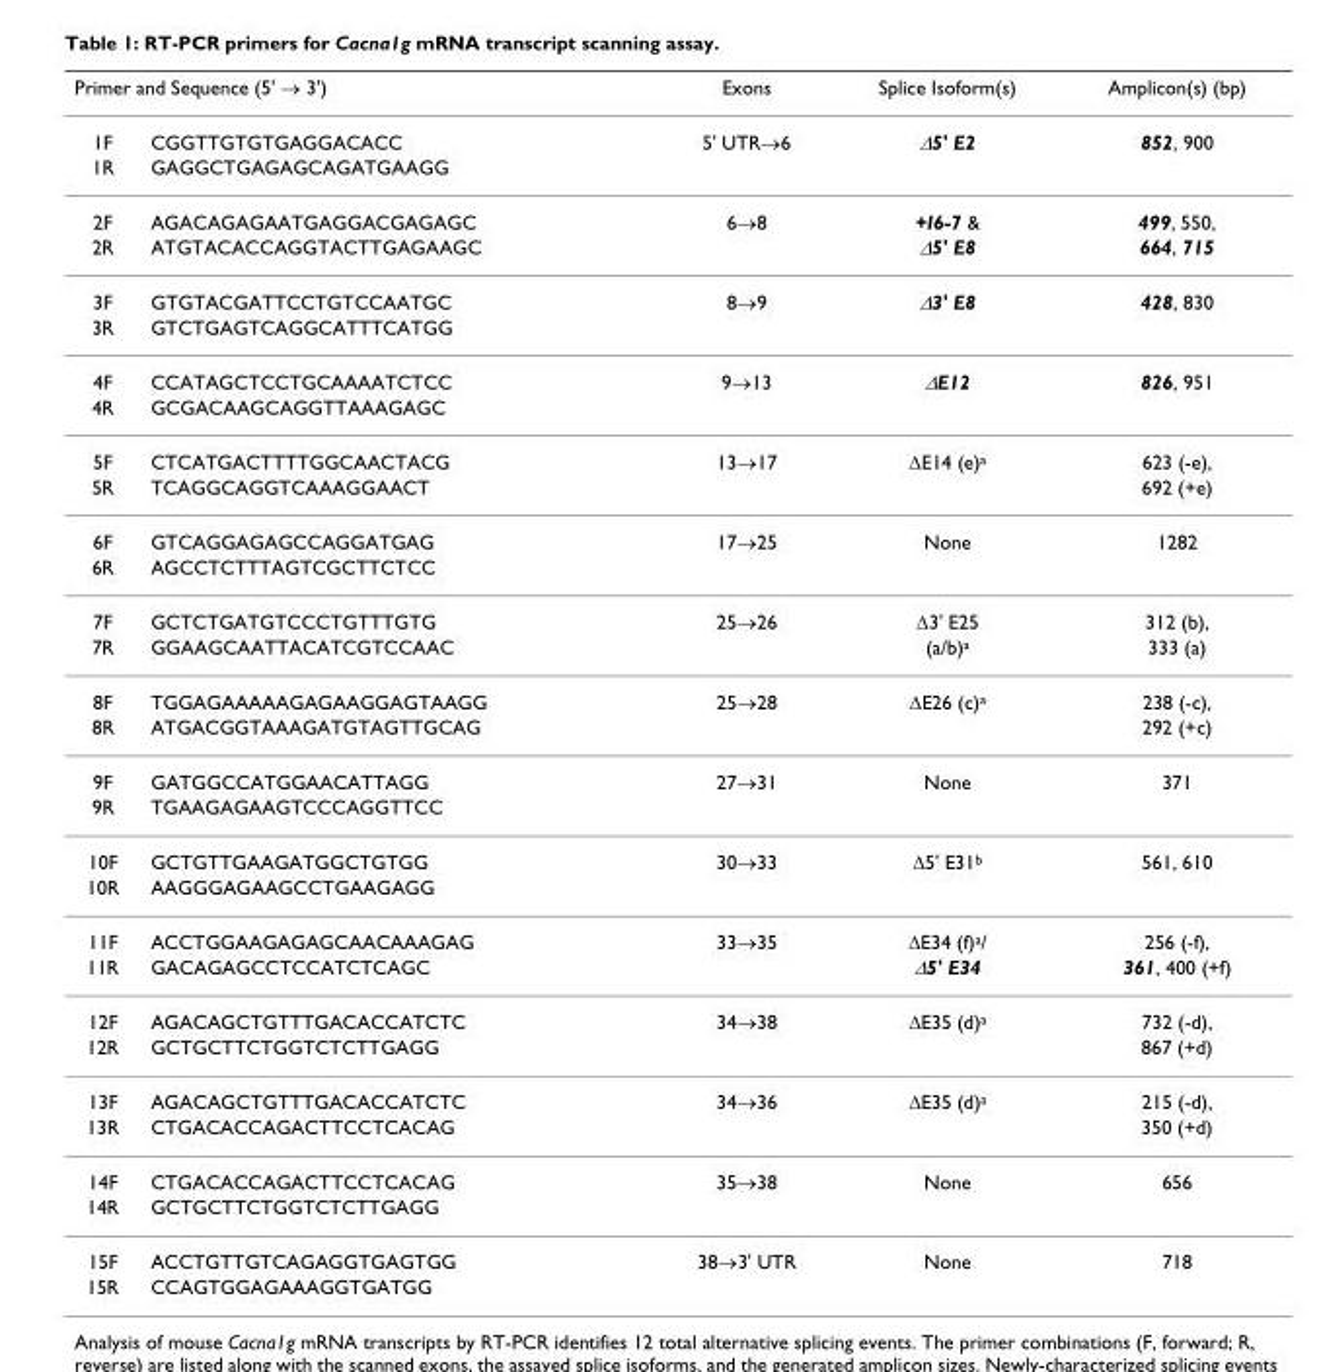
<table><thead><tr><td colspan="2">Primer and Sequence (5&#x27; → 3&#x27;)</td><td rowspan="2">Exons 5&#x27; UTR→6</td><td rowspan="2">Splice Isoform(s) Δ5&#x27; E2</td><td rowspan="2">Amplicon(s) (bp) 852, 900</td></tr><tr><td>1F</td><td>CGGTTGTGTGAGGACACC</td></tr></thead><tbody><tr><td>1R</td><td>GAGGCTGAGAGCAGATGAAGG</td><td></td><td></td><td></td></tr><tr><td>2F</td><td>AGACAGAGAATGAGGACGAGAGC</td><td>6→8</td><td>+I6-7 &amp;</td><td>499, 550,</td></tr><tr><td>2R</td><td>ATGTACACCAGGTACTTGAGAAGC</td><td></td><td>Δ5&#x27; E8</td><td>664, 715</td></tr><tr><td>3F</td><td>GTGTACGATTCCTGTCCAATGC</td><td>8→9</td><td>Δ3&#x27; E8</td><td>428, 830</td></tr><tr><td>3R</td><td>GTCTGAGTCAGGCATTTCATGG</td><td></td><td></td><td></td></tr><tr><td>4F</td><td>CCATAGCTCCTGCAAAATCTCC</td><td>9→13</td><td>ΔE12</td><td>826, 951</td></tr><tr><td>4R</td><td>GCGACAAGCAGGTTAAAGAGC</td><td></td><td></td><td></td></tr><tr><td>5F</td><td>CTCATGACTTTTGGCAACTACG</td><td>13→17</td><td>ΔE14 (e)<sup>a</sup></td><td>623 (-e),</td></tr><tr><td>5R</td><td>TCAGGCAGGTCAAAGGAACT</td><td></td><td></td><td>692 (+e)</td></tr><tr><td>6F</td><td>GTCAGGAGAGCCAGGATGAG</td><td>17→25</td><td>None</td><td>1282</td></tr><tr><td>6R</td><td>AGCCTCTTTAGTCGCTTCTCC</td><td></td><td></td><td></td></tr><tr><td>7F</td><td>GCTCTGATGTCCCTGTTTGTG</td><td>25→26</td><td>Δ3&#x27; E25</td><td>312 (b),</td></tr><tr><td>7R</td><td>GGAAGCAATTACATCGTCCAAC</td><td></td><td>(a/b)<sup>a</sup></td><td>333 (a)</td></tr><tr><td>8F</td><td>TGGAGAAAAAGAGAAGGAGTAAGG</td><td>25→28</td><td>ΔE26 (c)<sup>a</sup></td><td>238 (-c),</td></tr><tr><td>8R</td><td>ATGACGGTAAAGATGTAGTTGCAG</td><td></td><td></td><td>292 (+c)</td></tr><tr><td>9F</td><td>GATGGCCATGGAACATTAGG</td><td>27→31</td><td>None</td><td>371</td></tr><tr><td>9R</td><td>TGAAGAGAAGTCCCAGGTTCC</td><td></td><td></td><td></td></tr><tr><td>10F</td><td>GCTGTTGAAGATGGCTGTGG</td><td>30→33</td><td>Δ5&#x27; E31<sup>b</sup></td><td>561, 610</td></tr><tr><td>10R</td><td>AAGGGAGAAGCCTGAAGAGG</td><td></td><td></td><td></td></tr><tr><td>11F</td><td>ACCTGGAAGAGAGCAACAAAGAG</td><td>33→35</td><td>ΔE34 (f)<sup>a</sup>/</td><td>256 (-f),</td></tr><tr><td>11R</td><td>GACAGAGCCTCCATCTCAGC</td><td></td><td>Δ5&#x27; E34</td><td>361, 400 (+f)</td></tr><tr><td>12F</td><td>AGACAGCTGTTTGACACCATCTC</td><td>34→38</td><td>ΔE35 (d)<sup>a</sup></td><td>732 (-d),</td></tr><tr><td>12R</td><td>GCTGCTTCTGGTCTCTTGAGG</td><td></td><td></td><td>867 (+d)</td></tr><tr><td>13F</td><td>AGACAGCTGTTTGACACCATCTC</td><td>34→36</td><td>ΔE35 (d)<sup>a</sup></td><td>215 (-d),</td></tr><tr><td>13R</td><td>CTGACACCAGACTTCCTCACAG</td><td></td><td></td><td>350 (+d)</td></tr><tr><td>14F</td><td>CTGACACCAGACTTCCTCACAG</td><td>35→38</td><td>None</td><td>656</td></tr><tr><td>14R</td><td>GCTGCTTCTGGTCTCTTGAGG</td><td></td><td></td><td></td></tr><tr><td>15F</td><td>ACCTGTTGTCAGAGGTGAGTGG</td><td>38→3&#x27; UTR</td><td>None</td><td>718</td></tr><tr><td>15R</td><td>CCAGTGGAGAAAGGTGATGG</td><td></td><td></td><td></td></tr></tbody></table>